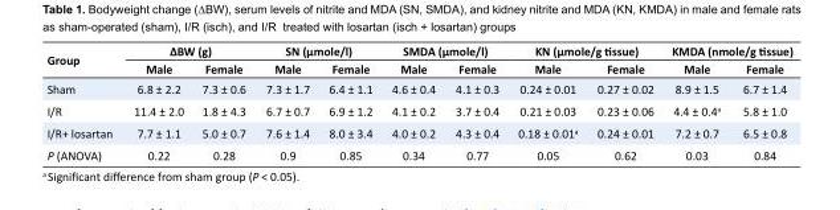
<table><tbody><tr><td rowspan="2">Group</td><td colspan="2">∆BW (g)</td><td colspan="2">SN (µmole/l)</td><td colspan="2">SMDA (µmole/l)</td><td colspan="2">KN (µmole/g tissue)</td><td colspan="2">KMDA (nmole/g tissue)</td></tr><tr><td>Male</td><td>Female</td><td>Male</td><td>Female</td><td>Male</td><td>Female</td><td>Male</td><td>Female</td><td>Male</td><td>Female</td></tr><tr><td>Sham</td><td>6.8 ± 2.2</td><td>7.3 ± 0.6</td><td>7.3 ± 1.7</td><td>6.4 ± 1.1</td><td>4.6 ± 0.4</td><td>4.1 ± 0.3</td><td>0.24 ± 0.01</td><td>0.27 ± 0.02</td><td>8.9 ± 1.5</td><td>6.7 ± 1.4</td></tr><tr><td>I/R</td><td>11.4 ± 2.0</td><td>1.8 ± 4.3</td><td>6.7 ± 0.7</td><td>6.9 ± 1.2</td><td>4.1 ± 0.2</td><td>3.7 ± 0.4</td><td>0.21 ± 0.03</td><td>0.23 ± 0.06</td><td>4.4 ± 0.4<sup>a</sup></td><td>5.8 ± 1.0</td></tr><tr><td>I/R+ losartan</td><td>7.7 ± 1.1</td><td>5.0 ± 0.7</td><td>7.6 ± 1.4</td><td>8.0 ± 3.4</td><td>4.0 ± 0.2</td><td>4.3 ± 0.4</td><td>0.18 ± 0.01<sup>a</sup></td><td>0.24 ± 0.01</td><td>7.2 ± 0.7</td><td>6.5 ± 0.8</td></tr><tr><td>P (ANOVA)</td><td>0.22</td><td>0.28</td><td>0.9</td><td>0.85</td><td>0.34</td><td>0.77</td><td>0.05</td><td>0.62</td><td>0.03</td><td>0.84</td></tr></tbody></table>